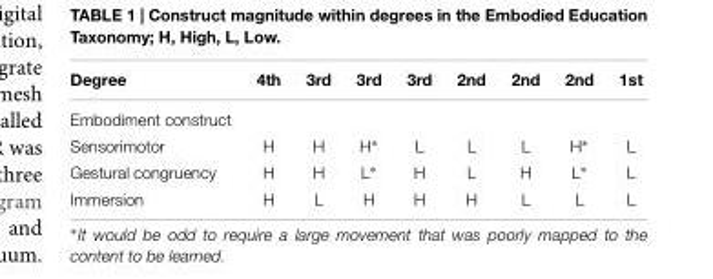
<table><thead><tr><td>Degree</td><td>4th</td><td>3rd</td><td>3rd</td><td>3rd</td><td>2nd</td><td>2nd</td><td>2nd</td><td>1st</td></tr></thead><tbody><tr><td colspan="9">Embodiment construct</td></tr><tr><td>Sensorimotor</td><td>H</td><td>H</td><td>H∗</td><td>L</td><td>L</td><td>L</td><td>H∗</td><td>L</td></tr><tr><td>Gestural congruency</td><td>H</td><td>H</td><td>L∗</td><td>H</td><td>L</td><td>H</td><td>L∗</td><td>L</td></tr><tr><td>Immersion</td><td>H</td><td>L</td><td>H</td><td>H</td><td>H</td><td>L</td><td>L</td><td>L</td></tr></tbody></table>